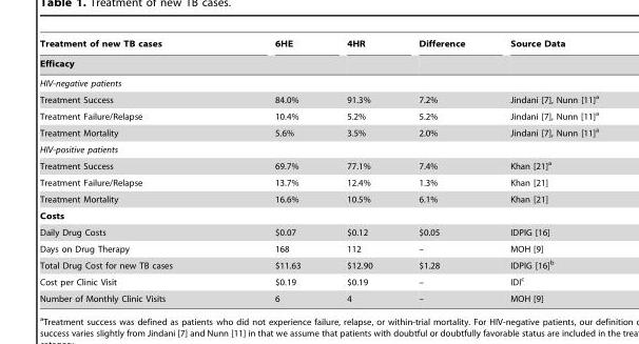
<table><thead><tr><td rowspan="2">Treatment of new TB cases Efficacy</td><td rowspan="2">6HE</td><td rowspan="2">4HR</td><td rowspan="2">Difference</td><td rowspan="2">Source Data</td></tr><tr></tr></thead><tbody><tr><td colspan="5">HIV-negative patients</td></tr><tr><td>Treatment Success</td><td>84.0%</td><td>91.3%</td><td>7.2%</td><td>Jindani [7], Nunn [11]a</td></tr><tr><td>Treatment Failure/Relapse</td><td>10.4%</td><td>5.2%</td><td>5.2%</td><td>Jindani [7], Nunn [11]a</td></tr><tr><td>Treatment Mortality</td><td>5.6%</td><td>3.5%</td><td>2.0%</td><td>Jindani [7], Nunn [11]a</td></tr><tr><td colspan="5">HIV-positive patients</td></tr><tr><td>Treatment Success</td><td>69.7%</td><td>77.1%</td><td>7.4%</td><td>Khan [21]a</td></tr><tr><td>Treatment Failure/Relapse</td><td>13.7%</td><td>12.4%</td><td>1.3%</td><td>Khan [21]</td></tr><tr><td>Treatment Mortality</td><td>16.6%</td><td>10.5%</td><td>6.1%</td><td>Khan [21]</td></tr><tr><td colspan="5">Costs</td></tr><tr><td>Daily Drug Costs</td><td>$0.07</td><td>$0.12</td><td>$0.05</td><td>IDPIG [16]</td></tr><tr><td>Days on Drug Therapy</td><td>168</td><td>112</td><td>–</td><td>MOH [9]</td></tr><tr><td>Total Drug Cost for new TB cases</td><td>$11.63</td><td>$12.90</td><td>$1.28</td><td>IDPIG [16]b</td></tr><tr><td>Cost per Clinic Visit</td><td>$0.19</td><td>$0.19</td><td>–</td><td>IDI<sup>c</sup></td></tr><tr><td>Number of Monthly Clinic Visits</td><td>6</td><td>4</td><td>–</td><td>MOH [9]</td></tr></tbody></table>